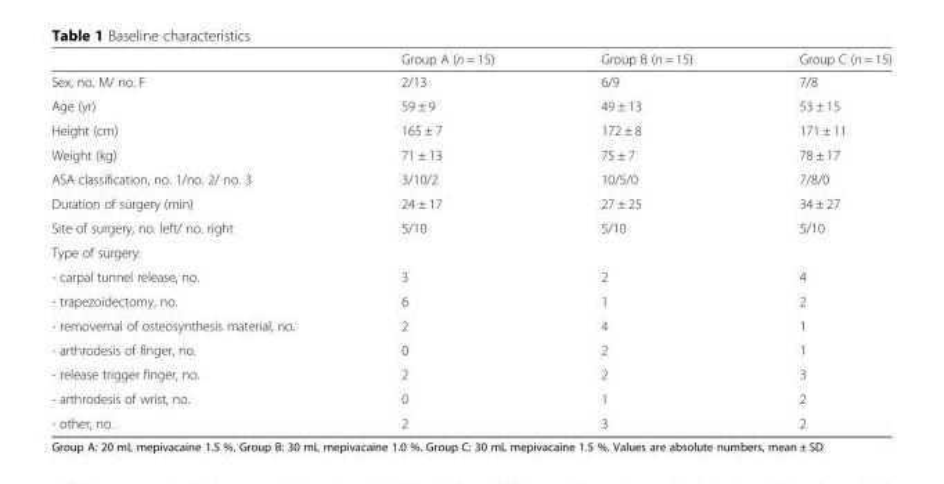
<table><thead><tr><td></td><td>Group A (n = 15)</td><td>Group B (n = 15)</td><td>Group C (n = 15)</td></tr></thead><tbody><tr><td>Sex, no. M/ no. F</td><td>2/13</td><td>6/9</td><td>7/8</td></tr><tr><td>Age (yr)</td><td>59 ± 9</td><td>49 ± 13</td><td>53 ± 15</td></tr><tr><td>Height (cm)</td><td>165 ± 7</td><td>172 ± 8</td><td>171 ± 11</td></tr><tr><td>Weight (kg)</td><td>71 ± 13</td><td>75 ± 7</td><td>78 ± 17</td></tr><tr><td>ASA classification, no. 1/no. 2/ no. 3</td><td>3/10/2</td><td>10/5/0</td><td>7/8/0</td></tr><tr><td>Duration of surgery (min)</td><td>24 ± 17</td><td>27 ± 25</td><td>34 ± 27</td></tr><tr><td>Site of surgery, no. left/ no. right</td><td>5/10</td><td>5/10</td><td>5/10</td></tr><tr><td colspan="4">Type of surgery:</td></tr><tr><td>- carpal tunnel release, no.</td><td>3</td><td>2</td><td>4</td></tr><tr><td>- trapezoidectomy, no.</td><td>6</td><td>1</td><td>2</td></tr><tr><td>- removemal of osteosynthesis material, no.</td><td>2</td><td>4</td><td>1</td></tr><tr><td>- arthrodesis of finger, no.</td><td>0</td><td>2</td><td>1</td></tr><tr><td>- release trigger finger, no.</td><td>2</td><td>2</td><td>3</td></tr><tr><td>- arthrodesis of wrist, no.</td><td>0</td><td>1</td><td>2</td></tr><tr><td>- other, no.</td><td>2</td><td>3</td><td>2</td></tr></tbody></table>